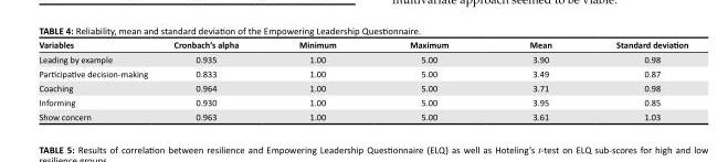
<table><thead><tr><td>Variables</td><td>Cronbach’s alpha</td><td>Minimum</td><td>Maximum</td><td>Mean</td><td>Standard deviation</td></tr></thead><tbody><tr><td>Leading by example</td><td>0.935</td><td>1.00</td><td>5.00</td><td>3.90</td><td>0.98</td></tr><tr><td>Participative decision-making</td><td>0.833</td><td>1.00</td><td>5.00</td><td>3.49</td><td>0.87</td></tr><tr><td>Coaching</td><td>0.964</td><td>1.00</td><td>5.00</td><td>3.71</td><td>0.98</td></tr><tr><td>Informing</td><td>0.930</td><td>1.00</td><td>5.00</td><td>3.95</td><td>0.85</td></tr><tr><td>Show concern</td><td>0.963</td><td>1.00</td><td>5.00</td><td>3.61</td><td>1.03</td></tr></tbody></table>